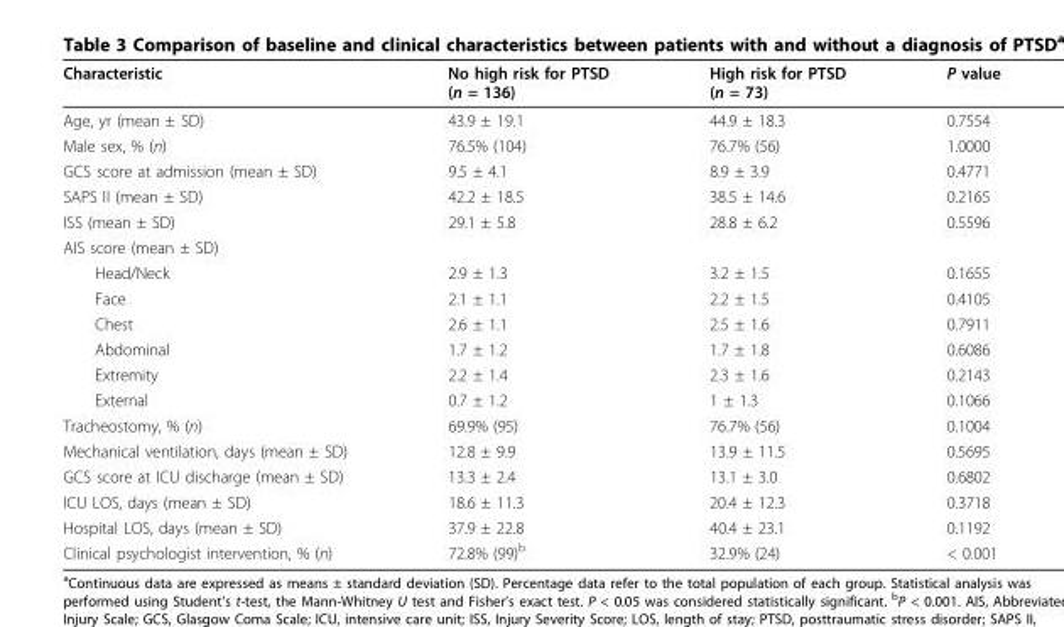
<table><thead><tr><td>Characteristic</td><td>No high risk for PTSD (n = 136)</td><td>High risk for PTSD (n = 73)</td><td>P value</td></tr></thead><tbody><tr><td>Age, yr (mean ± SD)</td><td>43.9 ± 19.1</td><td>44.9 ± 18.3</td><td>0.7554</td></tr><tr><td>Male sex, % (n)</td><td>76.5% (104)</td><td>76.7% (56)</td><td>1.0000</td></tr><tr><td>GCS score at admission (mean ± SD)</td><td>9.5 ± 4.1</td><td>8.9 ± 3.9</td><td>0.4771</td></tr><tr><td>SAPS II (mean ± SD)</td><td>42.2 ± 18.5</td><td>38.5 ± 14.6</td><td>0.2165</td></tr><tr><td>ISS (mean ± SD)</td><td>29.1 ± 5.8</td><td>28.8 ± 6.2</td><td>0.5596</td></tr><tr><td colspan="4">AIS score (mean ± SD)</td></tr><tr><td>Head/Neck</td><td>2.9 ± 1.3</td><td>3.2 ± 1.5</td><td>0.1655</td></tr><tr><td>Face</td><td>2.1 ± 1.1</td><td>2.2 ± 1.5</td><td>0.4105</td></tr><tr><td>Chest</td><td>2.6 ± 1.1</td><td>2.5 ± 1.6</td><td>0.7911</td></tr><tr><td>Abdominal</td><td>1.7 ± 1.2</td><td>1.7 ± 1.8</td><td>0.6086</td></tr><tr><td>Extremity</td><td>2.2 ± 1.4</td><td>2.3 ± 1.6</td><td>0.2143</td></tr><tr><td>External</td><td>0.7 ± 1.2</td><td>1 ± 1.3</td><td>0.1066</td></tr><tr><td>Tracheostomy, % (n)</td><td>69.9% (95)</td><td>76.7% (56)</td><td>0.1004</td></tr><tr><td>Mechanical ventilation, days (mean ± SD)</td><td>12.8 ± 9.9</td><td>13.9 ± 11.5</td><td>0.5695</td></tr><tr><td>GCS score at ICU discharge (mean ± SD)</td><td>13.3 ± 2.4</td><td>13.1 ± 3.0</td><td>0.6802</td></tr><tr><td>ICU LOS, days (mean ± SD)</td><td>18.6 ± 11.3</td><td>20.4 ± 12.3</td><td>0.3718</td></tr><tr><td>Hospital LOS, days (mean ± SD)</td><td>37.9 ± 22.8</td><td>40.4 ± 23.1</td><td>0.1192</td></tr><tr><td>Clinical psychologist intervention, % (n)</td><td>72.8% (99)<sup>b</sup></td><td>32.9% (24)</td><td>&lt; 0.001</td></tr></tbody></table>